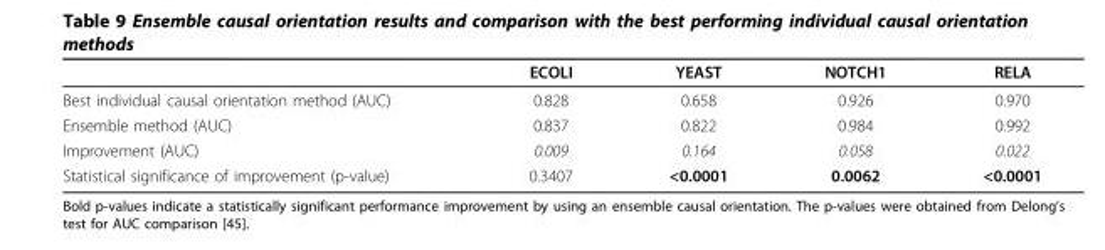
<table><thead><tr><td></td><td>ECOLI</td><td>YEAST</td><td>NOTCH1</td><td>RELA</td></tr></thead><tbody><tr><td>Best individual causal orientation method (AUC)</td><td>0.828</td><td>0.658</td><td>0.926</td><td>0.970</td></tr><tr><td>Ensemble method (AUC)</td><td>0.837</td><td>0.822</td><td>0.984</td><td>0.992</td></tr><tr><td>Improvement (AUC)</td><td>0.009</td><td>0.164</td><td>0.058</td><td>0.022</td></tr><tr><td>Statistical significance of improvement (p-value)</td><td>0.3407</td><td>&lt;0.0001</td><td>0.0062</td><td>&lt;0.0001</td></tr></tbody></table>